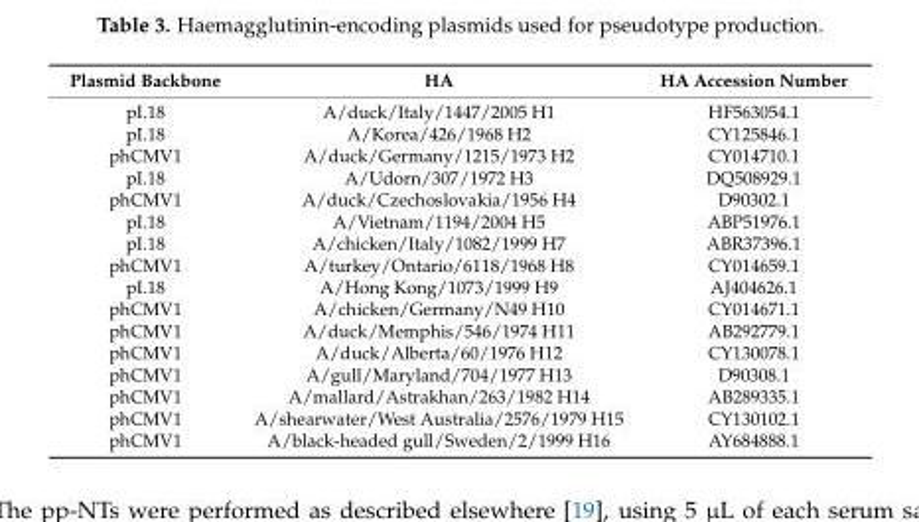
<table><thead><tr><td>Plasmid Backbone</td><td>HA</td><td>HA Accession Number</td></tr></thead><tbody><tr><td>pI.18</td><td>A/duck/Italy/1447/2005 H1</td><td>HF563054.1</td></tr><tr><td>pI.18</td><td>A/Korea/426/1968 H2</td><td>CY125846.1</td></tr><tr><td>phCMV1</td><td>A/duck/Germany/1215/1973 H2</td><td>CY014710.1</td></tr><tr><td>pI.18</td><td>A/Udorn/307/1972 H3</td><td>DQ508929.1</td></tr><tr><td>phCMV1</td><td>A/duck/Czechoslovakia/1956 H4</td><td>D90302.1</td></tr><tr><td>pI.18</td><td>A/Vietnam/1194/2004 H5</td><td>ABP51976.1</td></tr><tr><td>pI.18</td><td>A/chicken/Italy/1082/1999 H7</td><td>ABR37396.1</td></tr><tr><td>phCMV1</td><td>A/turkey/Ontario/6118/1968 H8</td><td>CY014659.1</td></tr><tr><td>pI.18</td><td>A/Hong Kong/1073/1999 H9</td><td>AJ404626.1</td></tr><tr><td>phCMV1</td><td>A/chicken/Germany/N49 H10</td><td>CY014671.1</td></tr><tr><td>phCMV1</td><td>A/duck/Memphis/546/1974 H11</td><td>AB292779.1</td></tr><tr><td>phCMV1</td><td>A/duck/Alberta/60/1976 H12</td><td>CY130078.1</td></tr><tr><td>phCMV1</td><td>A/gull/Maryland/704/1977 H13</td><td>D90308.1</td></tr><tr><td>phCMV1</td><td>A/mallard/Astrakhan/263/1982 H14</td><td>AB289335.1</td></tr><tr><td>phCMV1</td><td>A/shearwater/West Australia/2576/1979 H15</td><td>CY130102.1</td></tr><tr><td>phCMV1</td><td>A/black-headed gull/Sweden/2/1999 H16</td><td>AY684888.1</td></tr></tbody></table>